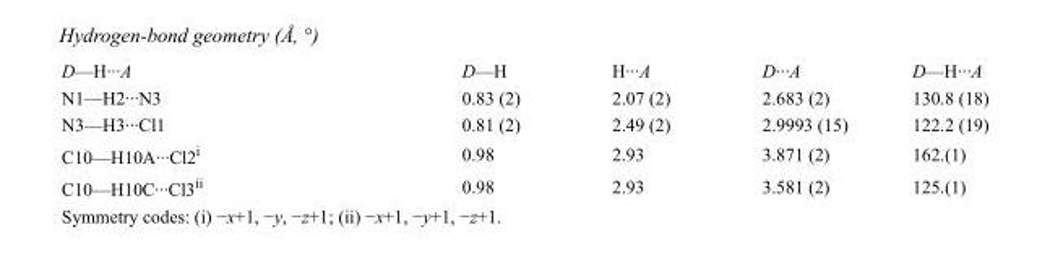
<table><tbody><tr><td>D—H···A</td><td>D—H</td><td>H···A</td><td>D···A</td><td>D—H···A</td></tr><tr><td>N1—H2···N3</td><td>0.83 (2)</td><td>2.07 (2)</td><td>2.683 (2)</td><td>130.8 (18)</td></tr><tr><td>N3—H3···Cl1</td><td>0.81 (2)</td><td>2.49 (2)</td><td>2.9993 (15)</td><td>122.2 (19)</td></tr><tr><td>C10—H10A···Cl2<sup>i</sup></td><td>0.98</td><td>2.93</td><td>3.871 (2)</td><td>162.(1)</td></tr><tr><td>C10—H10C···Cl3<sup>ii</sup></td><td>0.98</td><td>2.93</td><td>3.581 (2)</td><td>125.(1)</td></tr></tbody></table>